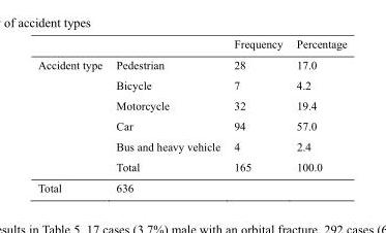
<table><thead><tr><td></td><td></td><td>Frequency</td><td>Percentage</td></tr></thead><tbody><tr><td rowspan="6">Accident type</td><td>Pedestrian</td><td>28</td><td>17.0</td></tr><tr><td>Bicycle</td><td>7</td><td>4.2</td></tr><tr><td>Motorcycle</td><td>32</td><td>19.4</td></tr><tr><td>Car</td><td>94</td><td>57.0</td></tr><tr><td>Bus and heavy vehicle</td><td>4</td><td>2.4</td></tr><tr><td>Total</td><td>165</td><td>100.0</td></tr><tr><td>Total</td><td>636</td><td></td><td></td></tr></tbody></table>